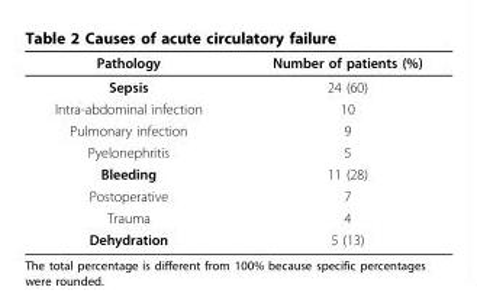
<table><thead><tr><td>Pathology</td><td>Number of patients (%)</td></tr></thead><tbody><tr><td>Sepsis</td><td>24 (60)</td></tr><tr><td>Intra-abdominal infection</td><td>10</td></tr><tr><td>Pulmonary infection</td><td>9</td></tr><tr><td>Pyelonephritis</td><td>5</td></tr><tr><td>Bleeding</td><td>11 (28)</td></tr><tr><td>Postoperative</td><td>7</td></tr><tr><td>Trauma</td><td>4</td></tr><tr><td>Dehydration</td><td>5 (13)</td></tr></tbody></table>